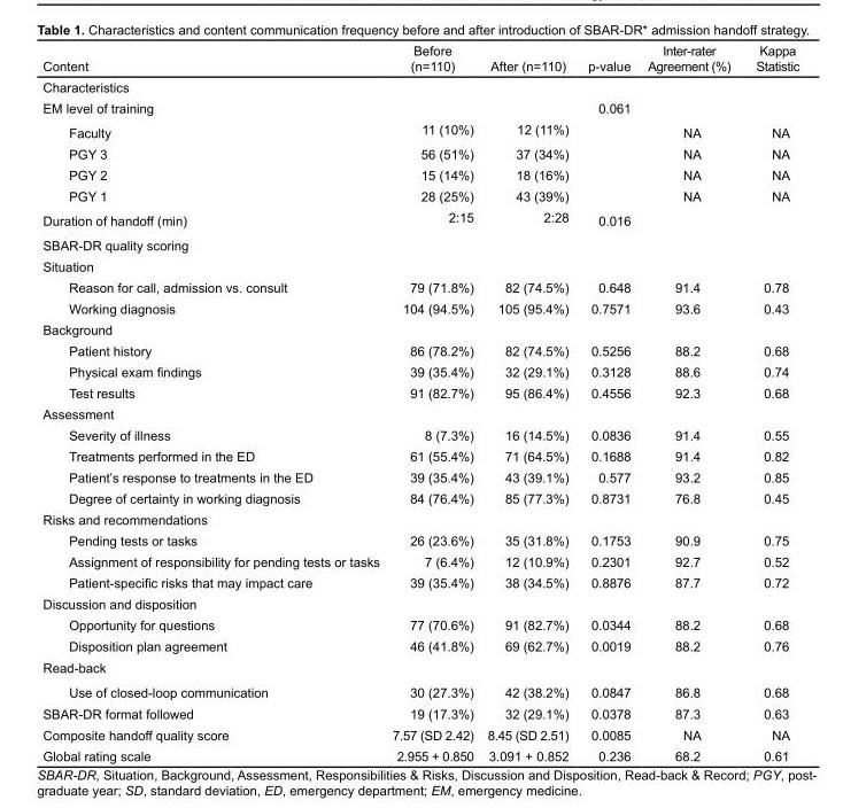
<table><thead><tr><td>Content</td><td>Before (n=110)</td><td>After (n=110)</td><td>p-value</td><td>Inter-rater Agreement (%)</td><td>Kappa Statistic</td></tr></thead><tbody><tr><td colspan="6">Characteristics</td></tr><tr><td>EM level of training</td><td></td><td></td><td>0.061</td><td></td><td></td></tr><tr><td>Faculty</td><td>11 (10%)</td><td>12 (11%)</td><td></td><td>NA</td><td>NA</td></tr><tr><td>PGY 3</td><td>56 (51%)</td><td>37 (34%)</td><td></td><td>NA</td><td>NA</td></tr><tr><td>PGY 2</td><td>15 (14%)</td><td>18 (16%)</td><td></td><td>NA</td><td>NA</td></tr><tr><td>PGY 1</td><td>28 (25%)</td><td>43 (39%)</td><td></td><td>NA</td><td>NA</td></tr><tr><td>Duration of handoff (min)</td><td>2:15</td><td>2:28</td><td>0.016</td><td></td><td></td></tr><tr><td colspan="6">SBAR-DR quality scoring</td></tr><tr><td colspan="6">Situation</td></tr><tr><td>Reason for call, admission vs. consult</td><td>79 (71.8%)</td><td>82 (74.5%)</td><td>0.648</td><td>91.4</td><td>0.78</td></tr><tr><td>Working diagnosis</td><td>104 (94.5%)</td><td>105 (95.4%)</td><td>0.7571</td><td>93.6</td><td>0.43</td></tr><tr><td colspan="6">Background</td></tr><tr><td>Patient history</td><td>86 (78.2%)</td><td>82 (74.5%)</td><td>0.5256</td><td>88.2</td><td>0.68</td></tr><tr><td>Physical exam findings</td><td>39 (35.4%)</td><td>32 (29.1%)</td><td>0.3128</td><td>88.6</td><td>0.74</td></tr><tr><td>Test results</td><td>91 (82.7%)</td><td>95 (86.4%)</td><td>0.4556</td><td>92.3</td><td>0.68</td></tr><tr><td colspan="6">Assessment</td></tr><tr><td>Severity of illness</td><td>8 (7.3%)</td><td>16 (14.5%)</td><td>0.0836</td><td>91.4</td><td>0.55</td></tr><tr><td>Treatments performed in the ED</td><td>61 (55.4%)</td><td>71 (64.5%)</td><td>0.1688</td><td>91.4</td><td>0.82</td></tr><tr><td>Patient’s response to treatments in the ED</td><td>39 (35.4%)</td><td>43 (39.1%)</td><td>0.577</td><td>93.2</td><td>0.85</td></tr><tr><td>Degree of certainty in working diagnosis</td><td>84 (76.4%)</td><td>85 (77.3%)</td><td>0.8731</td><td>76.8</td><td>0.45</td></tr><tr><td colspan="6">Risks and recommendations</td></tr><tr><td>Pending tests or tasks</td><td>26 (23.6%)</td><td>35 (31.8%)</td><td>0.1753</td><td>90.9</td><td>0.75</td></tr><tr><td>Assignment of responsibility for pending tests or tasks</td><td>7 (6.4%)</td><td>12 (10.9%)</td><td>0.2301</td><td>92.7</td><td>0.52</td></tr><tr><td>Patient-specific risks that may impact care</td><td>39 (35.4%)</td><td>38 (34.5%)</td><td>0.8876</td><td>87.7</td><td>0.72</td></tr><tr><td colspan="6">Discussion and disposition</td></tr><tr><td>Opportunity for questions</td><td>77 (70.6%)</td><td>91 (82.7%)</td><td>0.0344</td><td>88.2</td><td>0.68</td></tr><tr><td>Disposition plan agreement</td><td>46 (41.8%)</td><td>69 (62.7%)</td><td>0.0019</td><td>88.2</td><td>0.76</td></tr><tr><td colspan="6">Read-back</td></tr><tr><td>Use of closed-loop communication</td><td>30 (27.3%)</td><td>42 (38.2%)</td><td>0.0847</td><td>86.8</td><td>0.68</td></tr><tr><td>SBAR-DR format followed</td><td>19 (17.3%)</td><td>32 (29.1%)</td><td>0.0378</td><td>87.3</td><td>0.63</td></tr><tr><td>Composite handoff quality score</td><td>7.57 (SD 2.42)</td><td>8.45 (SD 2.51)</td><td>0.0085</td><td>NA</td><td>NA</td></tr><tr><td>Global rating scale</td><td>2.955 + 0.850</td><td>3.091 + 0.852</td><td>0.236</td><td>68.2</td><td>0.61</td></tr></tbody></table>